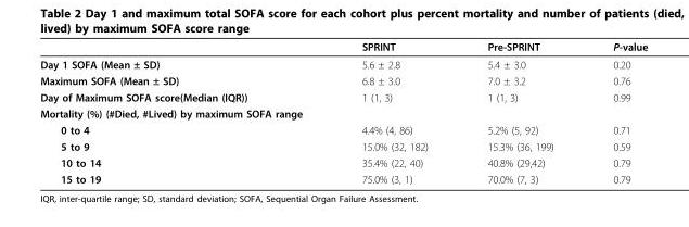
<table><thead><tr><td></td><td>SPRINT</td><td>Pre-SPRINT</td><td>P-value</td></tr></thead><tbody><tr><td>Day 1 SOFA (Mean ± SD)</td><td>5.6 ± 2.8</td><td>5.4 ± 3.0</td><td>0.20</td></tr><tr><td>Maximum SOFA (Mean ± SD)</td><td>6.8 ± 3.0</td><td>7.0 ± 3.2</td><td>0.76</td></tr><tr><td>Day of Maximum SOFA score(Median (IQR))</td><td>1 (1, 3)</td><td>1 (1, 3)</td><td>0.99</td></tr><tr><td colspan="4">Mortality (%) (#Died, #Lived) by maximum SOFA range</td></tr><tr><td>0 to 4</td><td>4.4% (4, 86)</td><td>5.2% (5, 92)</td><td>0.71</td></tr><tr><td>5 to 9</td><td>15.0% (32, 182)</td><td>15.3% (36, 199)</td><td>0.59</td></tr><tr><td>10 to 14</td><td>35.4% (22, 40)</td><td>40.8% (29,42)</td><td>0.79</td></tr><tr><td>15 to 19</td><td>75.0% (3, 1)</td><td>70.0% (7, 3)</td><td>0.79</td></tr></tbody></table>